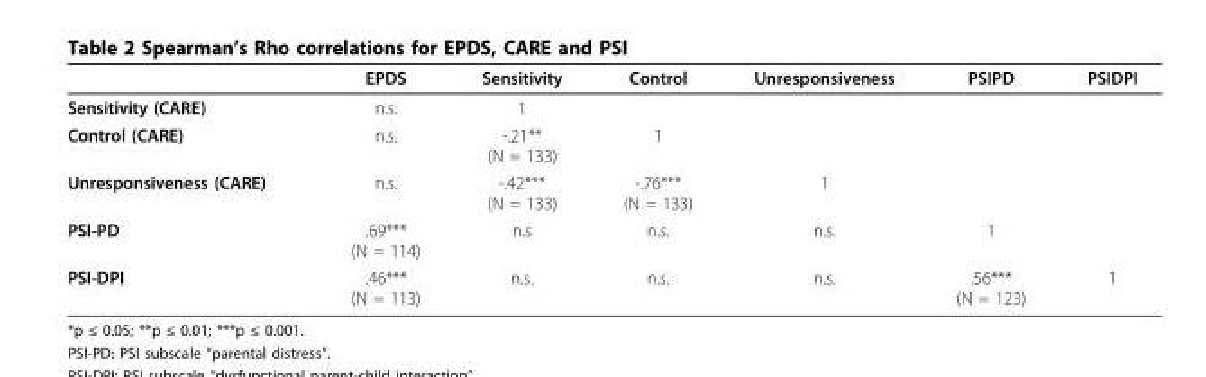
<table><thead><tr><td></td><td>EPDS</td><td>Sensitivity</td><td>Control</td><td>Unresponsiveness</td><td>PSIPD</td><td>PSIDPI</td></tr></thead><tbody><tr><td>Sensitivity (CARE)</td><td>n.s.</td><td>1</td><td></td><td></td><td></td><td></td></tr><tr><td>Control (CARE)</td><td>n.s.</td><td>-.21** (N = 133)</td><td>1</td><td></td><td></td><td></td></tr><tr><td>Unresponsiveness (CARE)</td><td>n.s.</td><td>-.42*** (N = 133)</td><td>-.76*** (N = 133)</td><td>1</td><td></td><td></td></tr><tr><td>PSI-PD</td><td>.69*** (N = 114)</td><td>n.s</td><td>n.s.</td><td>n.s.</td><td>1</td><td></td></tr><tr><td>PSI-DPI</td><td>.46*** (N = 113)</td><td>n.s.</td><td>n.s.</td><td>n.s.</td><td>.56*** (N = 123)</td><td>1</td></tr></tbody></table>